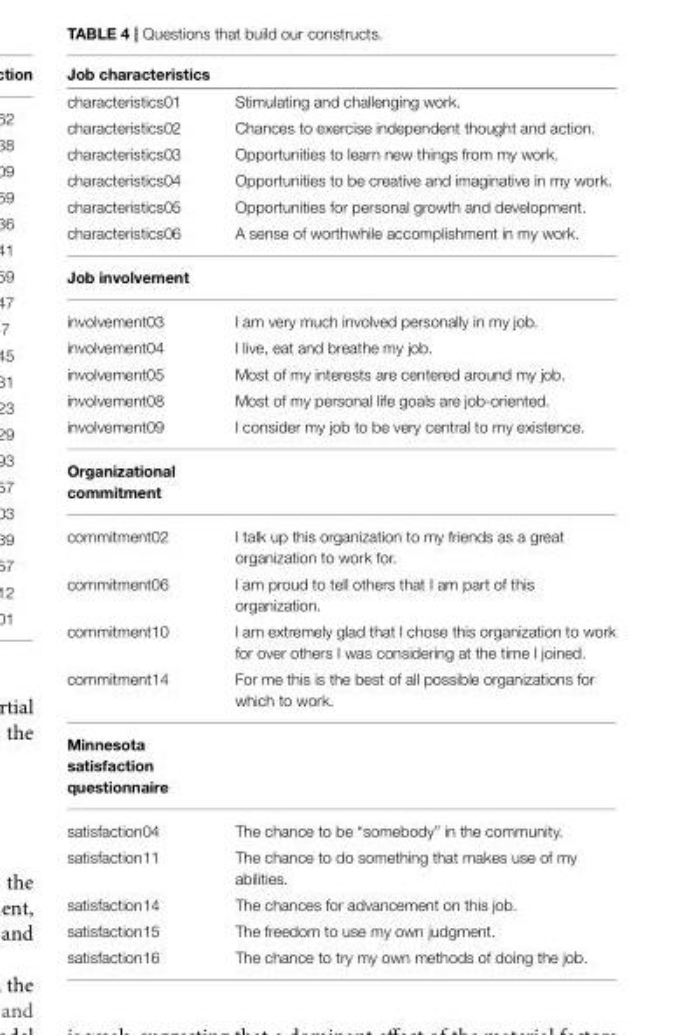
<table><thead><tr><td>Job characteristics</td><td></td></tr></thead><tbody><tr><td>characteristics01</td><td>Stimulating and challenging work.</td></tr><tr><td>characteristics02</td><td>Chances to exercise independent thought and action.</td></tr><tr><td>characteristics03</td><td>Opportunities to learn new things from my work.</td></tr><tr><td>characteristics04</td><td>Opportunities to be creative and imaginative in my work.</td></tr><tr><td>characteristics05</td><td>Opportunities for personal growth and development.</td></tr><tr><td>characteristics06</td><td>A sense of worthwhile accomplishment in my work.</td></tr><tr><td colspan="2">Job involvement</td></tr><tr><td>involvement03</td><td>I am very much involved personally in my job.</td></tr><tr><td>involvement04</td><td>I live, eat and breathe my job.</td></tr><tr><td>involvement05</td><td>Most of my interests are centered around my job.</td></tr><tr><td>involvement08</td><td>Most of my personal life goals are job-oriented.</td></tr><tr><td>involvement09</td><td>I consider my job to be very central to my existence.</td></tr><tr><td colspan="2">Organizational commitment</td></tr><tr><td>commitment02</td><td>I talk up this organization to my friends as a great organization to work for.</td></tr><tr><td>commitment06</td><td>I am proud to tell others that I am part of this organization.</td></tr><tr><td>commitment10</td><td>I am extremely glad that I chose this organization to work for over others I was considering at the time I joined.</td></tr><tr><td>commitment14</td><td>For me this is the best of all possible organizations for which to work.</td></tr><tr><td colspan="2">Minnesota satisfaction questionnaire</td></tr><tr><td>satisfaction04</td><td>The chance to be “somebody” in the community.</td></tr><tr><td>satisfaction11</td><td>The chance to do something that makes use of my abilities.</td></tr><tr><td>satisfaction14</td><td>The chances for advancement on this job.</td></tr><tr><td>satisfaction15</td><td>The freedom to use my own judgment.</td></tr><tr><td>satisfaction16</td><td>The chance to try my own methods of doing the job.</td></tr></tbody></table>